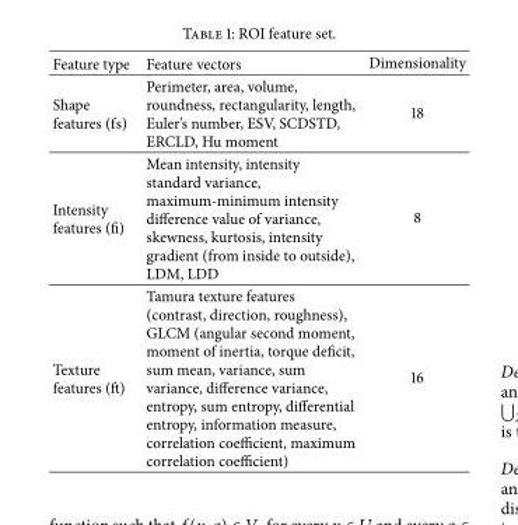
<table><thead><tr><td>Feature type</td><td>Feature vectors</td><td>Dimensionality</td></tr></thead><tbody><tr><td>Shape features (fs)</td><td>Perimeter, area, volume, roundness, rectangularity, length, Euler’s number, ESV, SCDSTD, ERCLD, Hu moment</td><td>18</td></tr><tr><td>Intensity features (fi)</td><td>Mean intensity, intensity standard variance, maximum-minimum intensity difference value of variance, skewness, kurtosis, intensity gradient (from inside to outside), LDM, LDD</td><td>8</td></tr><tr><td>Texture features (ft)</td><td>Tamura texture features (contrast, direction, roughness), GLCM (angular second moment, moment of inertia, torque deficit, sum mean, variance, sum variance, difference variance, entropy, sum entropy, differential entropy, information measure, correlation coefficient, maximum correlation coefficient)</td><td>16</td></tr></tbody></table>